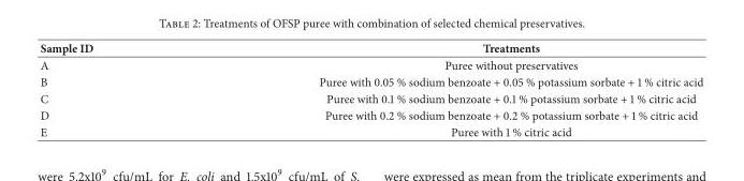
<table><thead><tr><td>Sample ID</td><td>Treatments</td></tr></thead><tbody><tr><td>A</td><td>Puree without preservatives</td></tr><tr><td>B</td><td>Puree with 0.05 % sodium benzoate + 0.05 % potassium sorbate + 1 % citric acid</td></tr><tr><td>C</td><td>Puree with 0.1 % sodium benzoate + 0.1 % potassium sorbate + 1 % citric acid</td></tr><tr><td>D</td><td>Puree with 0.2 % sodium benzoate + 0.2 % potassium sorbate + 1 % citric acid</td></tr><tr><td>E</td><td>Puree with 1 % citric acid</td></tr></tbody></table>